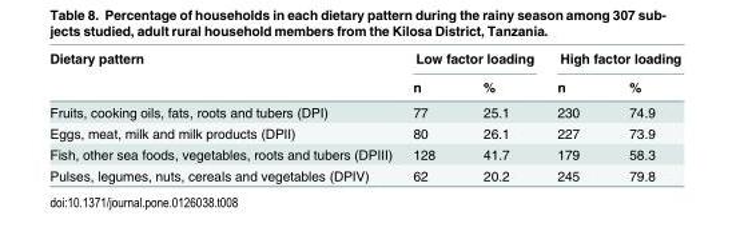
<table><thead><tr><td rowspan="2">Dietary pattern</td><td colspan="2">Low factor loading</td><td colspan="2">High factor loading</td></tr><tr><td>n</td><td>%</td><td>n</td><td>%</td></tr></thead><tbody><tr><td>Fruits, cooking oils, fats, roots and tubers (DPI)</td><td>77</td><td>25.1</td><td>230</td><td>74.9</td></tr><tr><td>Eggs, meat, milk and milk products (DPII)</td><td>80</td><td>26.1</td><td>227</td><td>73.9</td></tr><tr><td>Fish, other sea foods, vegetables, roots and tubers (DPIII)</td><td>128</td><td>41.7</td><td>179</td><td>58.3</td></tr><tr><td>Pulses, legumes, nuts, cereals and vegetables (DPIV)</td><td>62</td><td>20.2</td><td>245</td><td>79.8</td></tr></tbody></table>